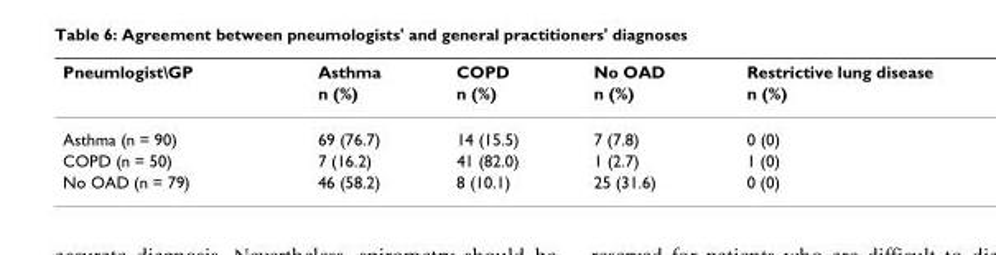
<table><thead><tr><td rowspan="2">Pneumlogist\GP</td><td rowspan="2">Asthma n (%)</td><td rowspan="2">COPD n (%)</td><td rowspan="2">No OAD n (%)</td><td rowspan="2">Restrictive lung disease n (%)</td></tr><tr></tr></thead><tbody><tr><td>Asthma (n = 90)</td><td>69 (76.7)</td><td>14 (15.5)</td><td>7 (7.8)</td><td>0 (0)</td></tr><tr><td>COPD (n = 50)</td><td>7 (16.2)</td><td>41 (82.0)</td><td>1 (2.7)</td><td>1 (0)</td></tr><tr><td>No OAD (n = 79)</td><td>46 (58.2)</td><td>8 (10.1)</td><td>25 (31.6)</td><td>0 (0)</td></tr></tbody></table>